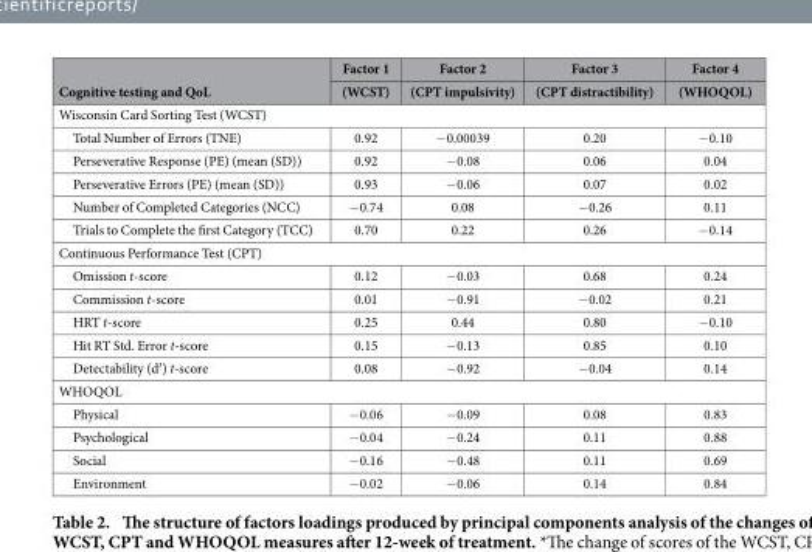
<table><thead><tr><td rowspan="2">Cognitive testing and QoL</td><td rowspan="2">Factor 1 (WCST)</td><td rowspan="2">Factor 2 (CPT impulsivity)</td><td rowspan="2">Factor 3 (CPT distractibility)</td><td rowspan="2">Factor 4 (WHOQOL)</td></tr><tr></tr></thead><tbody><tr><td colspan="5">Wisconsin Card Sorting Test (WCST)</td></tr><tr><td>Total Number of Errors (TNE)</td><td>0.92</td><td>− 0.00039</td><td>0.20</td><td>− 0.10</td></tr><tr><td>Perseverative Response (PE) (mean (SD))</td><td>0.92</td><td>− 0.08</td><td>0.06</td><td>0.04</td></tr><tr><td>Perseverative Errors (PE) (mean (SD))</td><td>0.93</td><td>− 0.06</td><td>0.07</td><td>0.02</td></tr><tr><td>Number of Completed Categories (NCC)</td><td>− 0.74</td><td>0.08</td><td>− 0.26</td><td>0.11</td></tr><tr><td>Trials to Complete the first Category (TCC)</td><td>0.70</td><td>0.22</td><td>0.26</td><td>− 0.14</td></tr><tr><td colspan="5">Continuous Performance Test (CPT)</td></tr><tr><td>Omission t-score</td><td>0.12</td><td>− 0.03</td><td>0.68</td><td>0.24</td></tr><tr><td>Commission t-score</td><td>0.01</td><td>− 0.91</td><td>− 0.02</td><td>0.21</td></tr><tr><td>HRT t-score</td><td>0.25</td><td>0.44</td><td>0.80</td><td>− 0.10</td></tr><tr><td>Hit RT Std. Error t-score</td><td>0.15</td><td>− 0.13</td><td>0.85</td><td>0.10</td></tr><tr><td>Detectability (d′ ) t-score</td><td>0.08</td><td>− 0.92</td><td>− 0.04</td><td>0.14</td></tr><tr><td colspan="5">WHOQOL</td></tr><tr><td>Physical</td><td>− 0.06</td><td>− 0.09</td><td>0.08</td><td>0.83</td></tr><tr><td>Psychological</td><td>− 0.04</td><td>− 0.24</td><td>0.11</td><td>0.88</td></tr><tr><td>Social</td><td>− 0.16</td><td>− 0.48</td><td>0.11</td><td>0.69</td></tr><tr><td>Environment</td><td>− 0.02</td><td>− 0.06</td><td>0.14</td><td>0.84</td></tr></tbody></table>